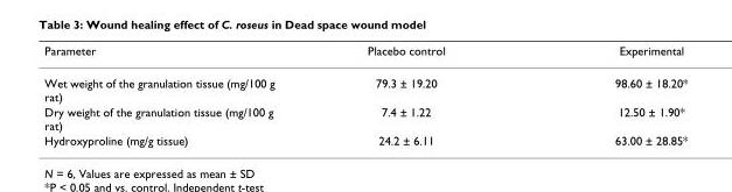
<table><thead><tr><td>Parameter</td><td>Placebo control</td><td>Experimental</td></tr></thead><tbody><tr><td>Wet weight of the granulation tissue (mg/100 g rat)</td><td>79.3 ± 19.20</td><td>98.60 ± 18.20*</td></tr><tr><td>Dry weight of the granulation tissue (mg/100 g rat)</td><td>7.4 ± 1.22</td><td>12.50 ± 1.90*</td></tr><tr><td>Hydroxyproline (mg/g tissue)</td><td>24.2 ± 6.11</td><td>63.00 ± 28.85*</td></tr></tbody></table>